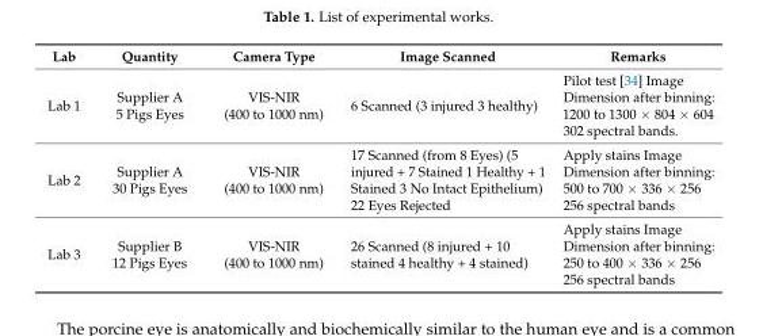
<table><thead><tr><td>Lab</td><td>Quantity</td><td>Camera Type</td><td>Image Scanned</td><td>Remarks</td></tr></thead><tbody><tr><td>Lab 1</td><td>Supplier A 5 Pigs Eyes</td><td>VIS-NIR (400 to 1000 nm)</td><td>6 Scanned (3 injured 3 healthy)</td><td>Pilot test [34] Image Dimension after binning: 1200 to 1300 × 804 × 604 302 spectral bands.</td></tr><tr><td>Lab 2</td><td>Supplier A 30 Pigs Eyes</td><td>VIS-NIR (400 to 1000 nm)</td><td>17 Scanned (from 8 Eyes) (5 injured + 7 Stained 1 Healthy + 1 Stained 3 No Intact Epithelium) 22 Eyes Rejected</td><td>Apply stains Image Dimension after binning: 500 to 700 × 336 × 256 256 spectral bands</td></tr><tr><td>Lab 3</td><td>Supplier B 12 Pigs Eyes</td><td>VIS-NIR (400 to 1000 nm)</td><td>26 Scanned (8 injured + 10 stained 4 healthy + 4 stained)</td><td>Apply stains Image Dimension after binning: 250 to 400 × 336 × 256 256 spectral bands</td></tr></tbody></table>